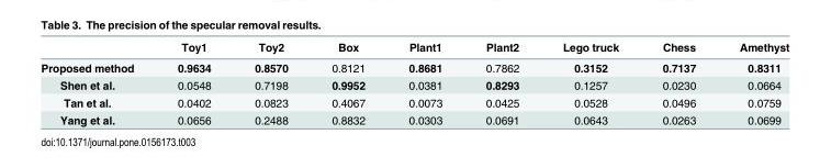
<table><thead><tr><td></td><td>Toy1</td><td>Toy2</td><td>Box</td><td>Plant1</td><td>Plant2</td><td>Lego truck</td><td>Chess</td><td>Amethyst</td></tr></thead><tbody><tr><td>Proposed method</td><td>0.9634</td><td>0.8570</td><td>0.8121</td><td>0.8681</td><td>0.7862</td><td>0.3152</td><td>0.7137</td><td>0.8311</td></tr><tr><td>Shen et al.</td><td>0.0548</td><td>0.7198</td><td>0.9952</td><td>0.0381</td><td>0.8293</td><td>0.1257</td><td>0.0230</td><td>0.0664</td></tr><tr><td>Tan et al.</td><td>0.0402</td><td>0.0823</td><td>0.4067</td><td>0.0073</td><td>0.0425</td><td>0.0528</td><td>0.0496</td><td>0.0759</td></tr><tr><td>Yang et al.</td><td>0.0656</td><td>0.2488</td><td>0.8832</td><td>0.0303</td><td>0.0691</td><td>0.0643</td><td>0.0263</td><td>0.0699</td></tr></tbody></table>